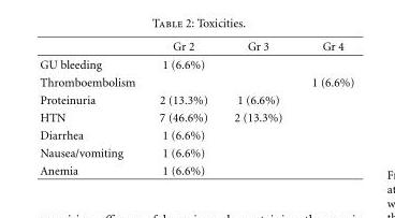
<table><thead><tr><td></td><td>Gr 2</td><td>Gr 3</td><td>Gr 4</td></tr></thead><tbody><tr><td>GU bleeding</td><td>1 (6.6%)</td><td></td><td></td></tr><tr><td>Thromboembolism</td><td></td><td></td><td>1 (6.6%)</td></tr><tr><td>Proteinuria</td><td>2 (13.3%)</td><td>1 (6.6%)</td><td></td></tr><tr><td>HTN</td><td>7 (46.6%)</td><td>2 (13.3%)</td><td></td></tr><tr><td>Diarrhea</td><td>1 (6.6%)</td><td></td><td></td></tr><tr><td>Nausea/vomiting</td><td>1 (6.6%)</td><td></td><td></td></tr><tr><td>Anemia</td><td>1 (6.6%)</td><td></td><td></td></tr></tbody></table>